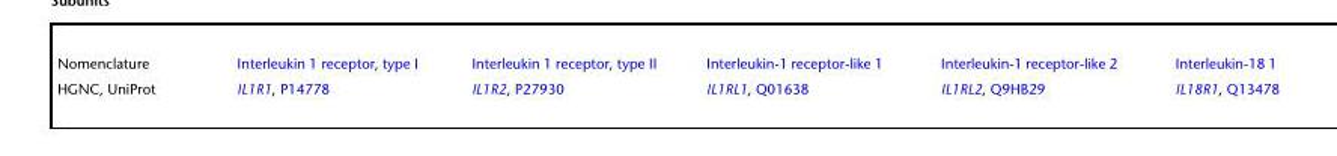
<table><tbody><tr><td>Nomenclature</td><td>Interleukin 1 receptor, type I</td><td>Interleukin 1 receptor, type II</td><td>Interleukin-1 receptor-like 1</td><td>Interleukin-1 receptor-like 2</td><td>Interleukin-18 1</td></tr><tr><td>HGNC, UniProt</td><td>IL1R1, P14778</td><td>IL1R2, P27930</td><td>IL1RL1, Q01638</td><td>IL1RL2, Q9HB29</td><td>IL18R1, Q13478</td></tr></tbody></table>